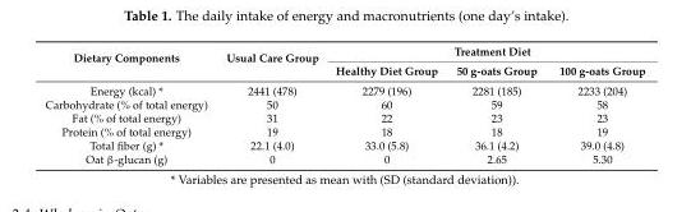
<table><thead><tr><td rowspan="2">Dietary Components</td><td rowspan="2">Usual Care Group</td><td colspan="3">Treatment Diet</td></tr><tr><td>Healthy Diet Group</td><td>50 g-oats Group</td><td>100 g-oats Group</td></tr></thead><tbody><tr><td>Energy (kcal) *</td><td>2441 (478)</td><td>2279 (196)</td><td>2281 (185)</td><td>2233 (204)</td></tr><tr><td>Carbohydrate (% of total energy)</td><td>50</td><td>60</td><td>59</td><td>58</td></tr><tr><td>Fat (% of total energy)</td><td>31</td><td>22</td><td>23</td><td>23</td></tr><tr><td>Protein (% of total energy)</td><td>19</td><td>18</td><td>18</td><td>19</td></tr><tr><td>Total fiber (g) *</td><td>22.1 (4.0)</td><td>33.0 (5.8)</td><td>36.1 (4.2)</td><td>39.0 (4.8)</td></tr><tr><td>Oat β-glucan (g)</td><td>0</td><td>0</td><td>2.65</td><td>5.30</td></tr></tbody></table>